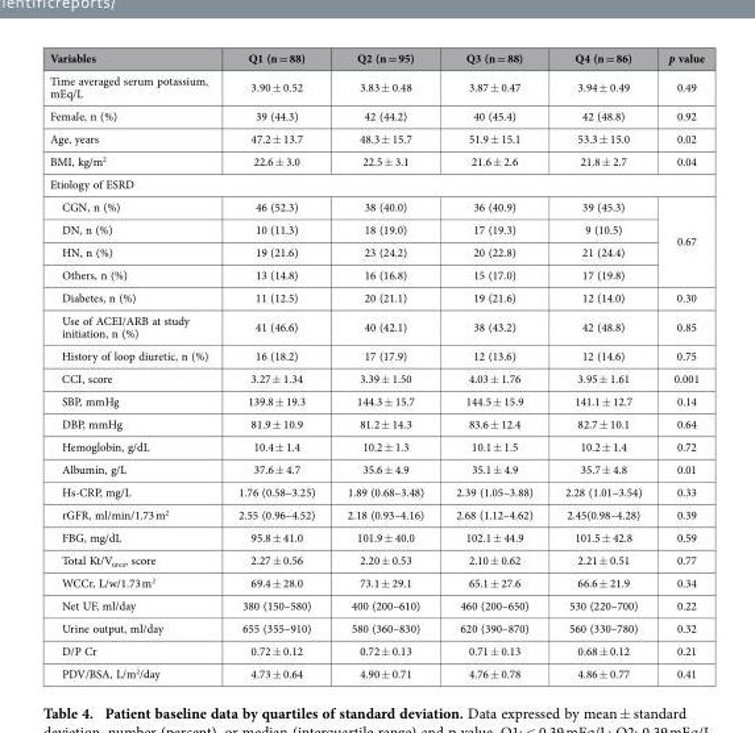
<table><thead><tr><td>Variables</td><td>Q1 (n = 88)</td><td>Q2 (n = 95)</td><td>Q3 (n = 88)</td><td>Q4 (n = 86)</td><td>p value</td></tr></thead><tbody><tr><td>Time averaged serum potassium, mEq/L</td><td>3.90 ± 0.52</td><td>3.83 ± 0.48</td><td>3.87 ± 0.47</td><td>3.94 ± 0.49</td><td>0.49</td></tr><tr><td>Female, n (%)</td><td>39 (44.3)</td><td>42 (44.2)</td><td>40 (45.4)</td><td>42 (48.8)</td><td>0.92</td></tr><tr><td>Age, years</td><td>47.2 ± 13.7</td><td>48.3 ± 15.7</td><td>51.9 ± 15.1</td><td>53.3 ± 15.0</td><td>0.02</td></tr><tr><td>BMI, kg/m<sup>2</sup></td><td>22.6 ± 3.0</td><td>22.5 ± 3.1</td><td>21.6 ± 2.6</td><td>21.8 ± 2.7</td><td>0.04</td></tr><tr><td colspan="6">Etiology of ESRD</td></tr><tr><td>CGN, n (%)</td><td>46 (52.3)</td><td>38 (40.0)</td><td>36 (40.9)</td><td>39 (45.3)</td><td rowspan="4">0.67</td></tr><tr><td>DN, n (%)</td><td>10 (11.3)</td><td>18 (19.0)</td><td>17 (19.3)</td><td>9 (10.5)</td></tr><tr><td>HN, n (%)</td><td>19 (21.6)</td><td>23 (24.2)</td><td>20 (22.8)</td><td>21 (24.4)</td></tr><tr><td>Others, n (%)</td><td>13 (14.8)</td><td>16 (16.8)</td><td>15 (17.0)</td><td>17 (19.8)</td></tr><tr><td>Diabetes, n (%)</td><td>11 (12.5)</td><td>20 (21.1)</td><td>19 (21.6)</td><td>12 (14.0)</td><td>0.30</td></tr><tr><td>Use of ACEI/ARB at study initiation, n (%)</td><td>41 (46.6)</td><td>40 (42.1)</td><td>38 (43.2)</td><td>42 (48.8)</td><td>0.85</td></tr><tr><td>History of loop diuretic, n (%)</td><td>16 (18.2)</td><td>17 (17.9)</td><td>12 (13.6)</td><td>12 (14.6)</td><td>0.75</td></tr><tr><td>CCI, score</td><td>3.27 ± 1.34</td><td>3.39 ± 1.50</td><td>4.03 ± 1.76</td><td>3.95 ± 1.61</td><td>0.001</td></tr><tr><td>SBP, mmHg</td><td>139.8 ± 19.3</td><td>144.3 ± 15.7</td><td>144.5 ± 15.9</td><td>141.1 ± 12.7</td><td>0.14</td></tr><tr><td>DBP, mmHg</td><td>81.9 ± 10.9</td><td>81.2 ± 14.3</td><td>83.6 ± 12.4</td><td>82.7 ± 10.1</td><td>0.64</td></tr><tr><td>Hemoglobin, g/dL</td><td>10.4 ± 1.4</td><td>10.2 ± 1.3</td><td>10.1 ± 1.5</td><td>10.2 ± 1.4</td><td>0.72</td></tr><tr><td>Albumin, g/L</td><td>37.6 ± 4.7</td><td>35.6 ± 4.9</td><td>35.1 ± 4.9</td><td>35.7 ± 4.8</td><td>0.01</td></tr><tr><td>Hs-CRP, mg/L</td><td>1.76 (0.58–3.25)</td><td>1.89 (0.68–3.48)</td><td>2.39 (1.05–3.88)</td><td>2.28 (1.01–3.54)</td><td>0.33</td></tr><tr><td>rGFR, ml/min/1.73 m<sup>2</sup></td><td>2.55 (0.96–4.52)</td><td>2.18 (0.93–4.16)</td><td>2.68 (1.12–4.62)</td><td>2.45(0.98–4.28)</td><td>0.39</td></tr><tr><td>FBG, mg/dL</td><td>95.8 ± 41.0</td><td>101.9 ± 40.0</td><td>102.1 ± 44.9</td><td>101.5 ± 42.8</td><td>0.59</td></tr><tr><td>Total Kt/V<sub>urea</sub>, score</td><td>2.27 ± 0.56</td><td>2.20 ± 0.53</td><td>2.10 ± 0.62</td><td>2.21 ± 0.51</td><td>0.77</td></tr><tr><td>WCCr, L/w/1.73 m<sup>2</sup></td><td>69.4 ± 28.0</td><td>73.1 ± 29.1</td><td>65.1 ± 27.6</td><td>66.6 ± 21.9</td><td>0.34</td></tr><tr><td>Net UF, ml/day</td><td>380 (150–580)</td><td>400 (200–610)</td><td>460 (200–650)</td><td>530 (220–700)</td><td>0.22</td></tr><tr><td>Urine output, ml/day</td><td>655 (355–910)</td><td>580 (360–830)</td><td>620 (390–870)</td><td>560 (330–780)</td><td>0.32</td></tr><tr><td>D/P Cr</td><td>0.72 ± 0.12</td><td>0.72 ± 0.13</td><td>0.71 ± 0.13</td><td>0.68 ± 0.12</td><td>0.21</td></tr><tr><td>PDV/BSA, L/m<sup>2</sup>/day</td><td>4.73 ± 0.64</td><td>4.90 ± 0.71</td><td>4.76 ± 0.78</td><td>4.86 ± 0.77</td><td>0.41</td></tr></tbody></table>